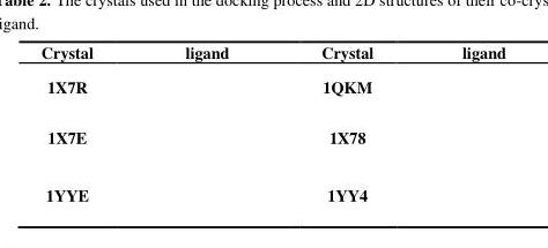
<table><thead><tr><td>Crystal</td><td>ligand</td><td>Crystal</td><td>ligand</td></tr></thead><tbody><tr><td>1X7R</td><td></td><td>1QKM</td><td></td></tr><tr><td>1X7E</td><td></td><td>1X78</td><td></td></tr><tr><td>1YYE</td><td></td><td>1YY4</td><td></td></tr></tbody></table>